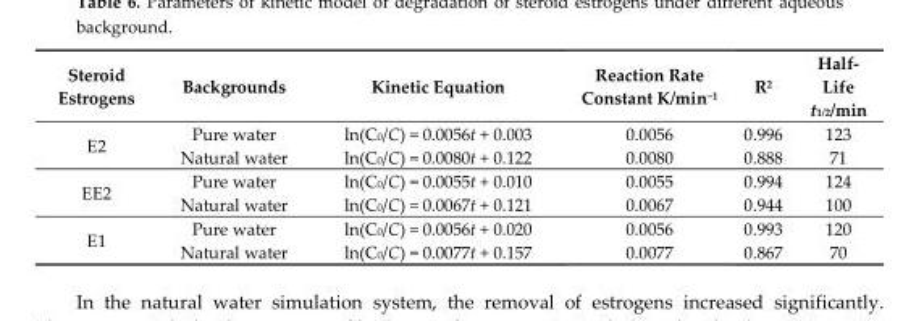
<table><thead><tr><td>Steroid Estrogens</td><td>Backgrounds</td><td>Kinetic Equation</td><td>Reaction Rate Constant K/min<sup>−1</sup></td><td>R<sup>2</sup></td><td>Half- Life t<sub>1/2</sub>/min</td></tr></thead><tbody><tr><td rowspan="2">E2</td><td>Pure water</td><td>ln(C<sub>0</sub>/C) = 0.0056t + 0.003</td><td>0.0056</td><td>0.996</td><td>123</td></tr><tr><td>Natural water</td><td>ln(C<sub>0</sub>/C) = 0.0080t + 0.122</td><td>0.0080</td><td>0.888</td><td>71</td></tr><tr><td rowspan="2">EE2</td><td>Pure water</td><td>ln(C<sub>0</sub>/C) = 0.0055t + 0.010</td><td>0.0055</td><td>0.994</td><td>124</td></tr><tr><td>Natural water</td><td>ln(C<sub>0</sub>/C) = 0.0067t + 0.121</td><td>0.0067</td><td>0.944</td><td>100</td></tr><tr><td rowspan="2">E1</td><td>Pure water</td><td>ln(C<sub>0</sub>/C) = 0.0056t + 0.020</td><td>0.0056</td><td>0.993</td><td>120</td></tr><tr><td>Natural water</td><td>ln(C<sub>0</sub>/C) = 0.0077t + 0.157</td><td>0.0077</td><td>0.867</td><td>70</td></tr></tbody></table>